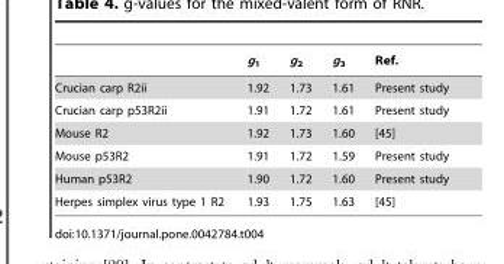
<table><thead><tr><td></td><td>g<sub>1</sub></td><td>g<sub>2</sub></td><td>g<sub>3</sub></td><td>Ref.</td></tr></thead><tbody><tr><td>Crucian carp R2ii</td><td>1.92</td><td>1.73</td><td>1.61</td><td>Present study</td></tr><tr><td>Crucian carp p53R2ii</td><td>1.91</td><td>1.72</td><td>1.61</td><td>Present study</td></tr><tr><td>Mouse R2</td><td>1.92</td><td>1.73</td><td>1.60</td><td>[45]</td></tr><tr><td>Mouse p53R2</td><td>1.91</td><td>1.72</td><td>1.59</td><td>Present study</td></tr><tr><td>Human p53R2</td><td>1.90</td><td>1.72</td><td>1.60</td><td>Present study</td></tr><tr><td>Herpes simplex virus type 1 R2</td><td>1.93</td><td>1.75</td><td>1.63</td><td>[45]</td></tr></tbody></table>